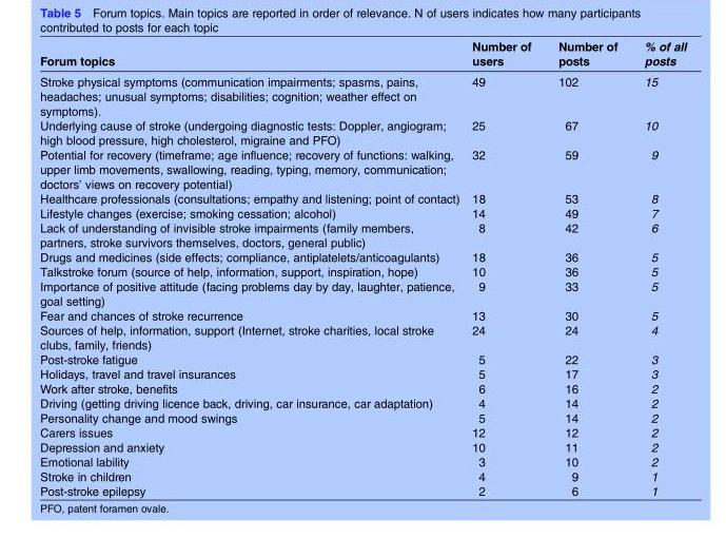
<table><thead><tr><td>Forum topics</td><td>Number of users</td><td>Number of posts</td><td>% of all posts</td></tr></thead><tbody><tr><td>Stroke physical symptoms (communication impairments; spasms, pains, headaches; unusual symptoms; disabilities; cognition; weather effect on symptoms).</td><td>49</td><td>102</td><td>15</td></tr><tr><td>Underlying cause of stroke (undergoing diagnostic tests: Doppler, angiogram; high blood pressure, high cholesterol, migraine and PFO)</td><td>25</td><td>67</td><td>10</td></tr><tr><td>Potential for recovery (timeframe; age influence; recovery of functions: walking, upper limb movements, swallowing, reading, typing, memory, communication; doctors’ views on recovery potential)</td><td>32</td><td>59</td><td>9</td></tr><tr><td>Healthcare professionals (consultations; empathy and listening; point of contact)</td><td>18</td><td>53</td><td>8</td></tr><tr><td>Lifestyle changes (exercise; smoking cessation; alcohol)</td><td>14</td><td>49</td><td>7</td></tr><tr><td>Lack of understanding of invisible stroke impairments (family members, partners, stroke survivors themselves, doctors, general public)</td><td>8</td><td>42</td><td>6</td></tr><tr><td>Drugs and medicines (side effects; compliance, antiplatelets/anticoagulants)</td><td>18</td><td>36</td><td>5</td></tr><tr><td>Talkstroke forum (source of help, information, support, inspiration, hope)</td><td>10</td><td>36</td><td>5</td></tr><tr><td>Importance of positive attitude (facing problems day by day, laughter, patience, goal setting)</td><td>9</td><td>33</td><td>5</td></tr><tr><td>Fear and chances of stroke recurrence</td><td>13</td><td>30</td><td>5</td></tr><tr><td>Sources of help, information, support (Internet, stroke charities, local stroke clubs, family, friends)</td><td>24</td><td>24</td><td>4</td></tr><tr><td>Post-stroke fatigue</td><td>5</td><td>22</td><td>3</td></tr><tr><td>Holidays, travel and travel insurances</td><td>5</td><td>17</td><td>3</td></tr><tr><td>Work after stroke, benefits</td><td>6</td><td>16</td><td>2</td></tr><tr><td>Driving (getting driving licence back, driving, car insurance, car adaptation)</td><td>4</td><td>14</td><td>2</td></tr><tr><td>Personality change and mood swings</td><td>5</td><td>14</td><td>2</td></tr><tr><td>Carers issues</td><td>12</td><td>12</td><td>2</td></tr><tr><td>Depression and anxiety</td><td>10</td><td>11</td><td>2</td></tr><tr><td>Emotional lability</td><td>3</td><td>10</td><td>2</td></tr><tr><td>Stroke in children</td><td>4</td><td>9</td><td>1</td></tr><tr><td>Post-stroke epilepsy</td><td>2</td><td>6</td><td>1</td></tr></tbody></table>